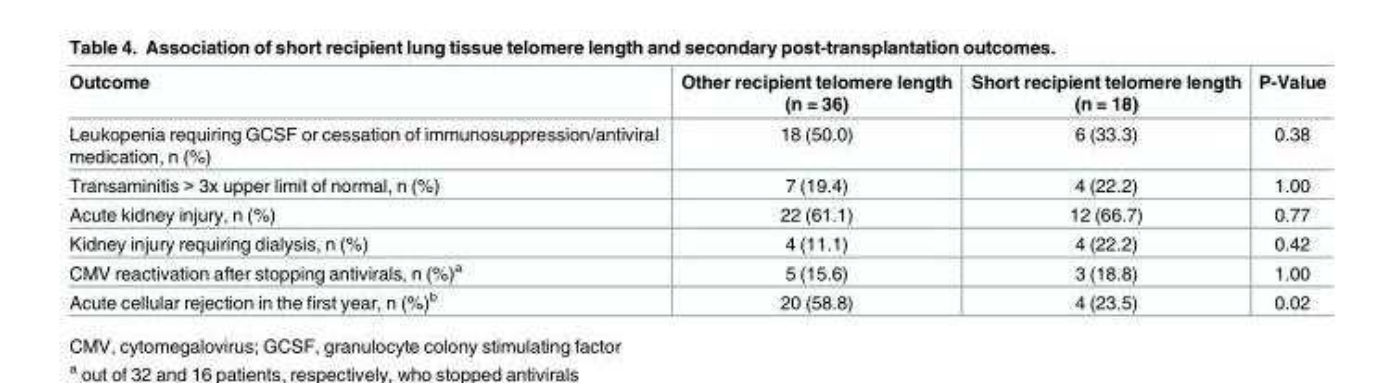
<table><thead><tr><td>Outcome</td><td>Other recipient telomere length (n = 36)</td><td>Short recipient telomere length (n = 18)</td><td>P-Value</td></tr></thead><tbody><tr><td>Leukopenia requiring GCSF or cessation of immunosuppression/antiviral medication, n (%)</td><td>18 (50.0)</td><td>6 (33.3)</td><td>0.38</td></tr><tr><td>Transaminitis &gt; 3x upper limit of normal, n (%)</td><td>7 (19.4)</td><td>4 (22.2)</td><td>1.00</td></tr><tr><td>Acute kidney injury, n (%)</td><td>22 (61.1)</td><td>12 (66.7)</td><td>0.77</td></tr><tr><td>Kidney injury requiring dialysis, n (%)</td><td>4 (11.1)</td><td>4 (22.2)</td><td>0.42</td></tr><tr><td>CMV reactivation after stopping antivirals, n (%)<sup>a</sup></td><td>5 (15.6)</td><td>3 (18.8)</td><td>1.00</td></tr><tr><td>Acute cellular rejection in the first year, n (%)<sup>b</sup></td><td>20 (58.8)</td><td>4 (23.5)</td><td>0.02</td></tr></tbody></table>